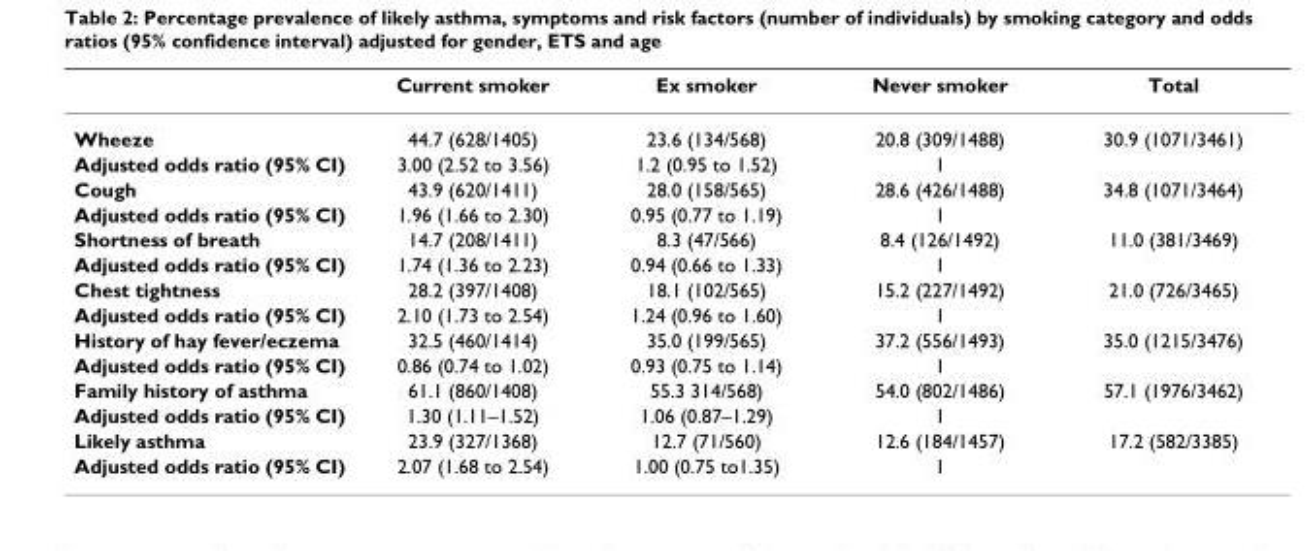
<table><thead><tr><td></td><td>Current smoker</td><td>Ex smoker</td><td>Never smoker</td><td>Total</td></tr></thead><tbody><tr><td>Wheeze</td><td>44.7 (628/1405)</td><td>23.6 (134/568)</td><td>20.8 (309/1488)</td><td>30.9 (1071/3461)</td></tr><tr><td>Adjusted odds ratio (95% CI)</td><td>3.00 (2.52 to 3.56)</td><td>1.2 (0.95 to 1.52)</td><td>1</td><td></td></tr><tr><td>Cough</td><td>43.9 (620/1411)</td><td>28.0 (158/565)</td><td>28.6 (426/1488)</td><td>34.8 (1071/3464)</td></tr><tr><td>Adjusted odds ratio (95% CI)</td><td>1.96 (1.66 to 2.30)</td><td>0.95 (0.77 to 1.19)</td><td>1</td><td></td></tr><tr><td>Shortness of breath</td><td>14.7 (208/1411)</td><td>8.3 (47/566)</td><td>8.4 (126/1492)</td><td>11.0 (381/3469)</td></tr><tr><td>Adjusted odds ratio (95% CI)</td><td>1.74 (1.36 to 2.23)</td><td>0.94 (0.66 to 1.33)</td><td>1</td><td></td></tr><tr><td>Chest tightness</td><td>28.2 (397/1408)</td><td>18.1 (102/565)</td><td>15.2 (227/1492)</td><td>21.0 (726/3465)</td></tr><tr><td>Adjusted odds ratio (95% CI)</td><td>2.10 (1.73 to 2.54)</td><td>1.24 (0.96 to 1.60)</td><td>1</td><td></td></tr><tr><td>History of hay fever/eczema</td><td>32.5 (460/1414)</td><td>35.0 (199/565)</td><td>37.2 (556/1493)</td><td>35.0 (1215/3476)</td></tr><tr><td>Adjusted odds ratio (95% CI)</td><td>0.86 (0.74 to 1.02)</td><td>0.93 (0.75 to 1.14)</td><td>1</td><td></td></tr><tr><td>Family history of asthma</td><td>61.1 (860/1408)</td><td>55.3 314/568)</td><td>54.0 (802/1486)</td><td>57.1 (1976/3462)</td></tr><tr><td>Adjusted odds ratio (95% CI)</td><td>1.30 (1.11–1.52)</td><td>1.06 (0.87–1.29)</td><td>1</td><td></td></tr><tr><td>Likely asthma</td><td>23.9 (327/1368)</td><td>12.7 (71/560)</td><td>12.6 (184/1457)</td><td>17.2 (582/3385)</td></tr><tr><td>Adjusted odds ratio (95% CI)</td><td>2.07 (1.68 to 2.54)</td><td>1.00 (0.75 to1.35)</td><td>1</td><td></td></tr></tbody></table>